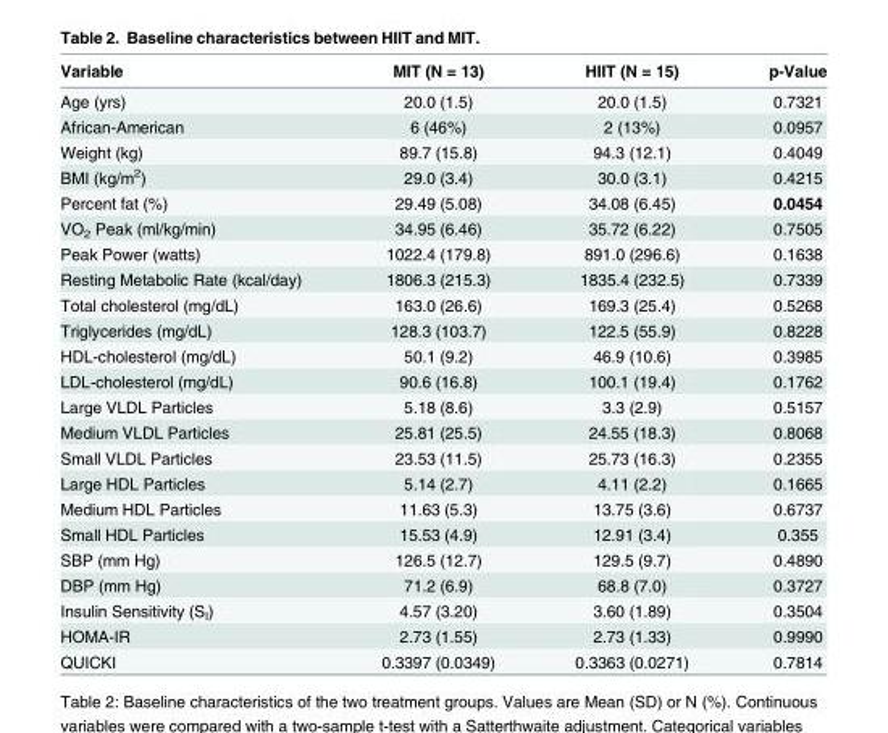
<table><thead><tr><td>Variable</td><td>MIT (N = 13)</td><td>HIIT (N = 15)</td><td>p-Value</td></tr></thead><tbody><tr><td>Age (yrs)</td><td>20.0 (1.5)</td><td>20.0 (1.5)</td><td>0.7321</td></tr><tr><td>African-American</td><td>6 (46%)</td><td>2 (13%)</td><td>0.0957</td></tr><tr><td>Weight (kg)</td><td>89.7 (15.8)</td><td>94.3 (12.1)</td><td>0.4049</td></tr><tr><td>BMI (kg/m<sup>2</sup>)</td><td>29.0 (3.4)</td><td>30.0 (3.1)</td><td>0.4215</td></tr><tr><td>Percent fat (%)</td><td>29.49 (5.08)</td><td>34.08 (6.45)</td><td>0.0454</td></tr><tr><td>VO<sub>2</sub> Peak (ml/kg/min)</td><td>34.95 (6.46)</td><td>35.72 (6.22)</td><td>0.7505</td></tr><tr><td>Peak Power (watts)</td><td>1022.4 (179.8)</td><td>891.0 (296.6)</td><td>0.1638</td></tr><tr><td>Resting Metabolic Rate (kcal/day)</td><td>1806.3 (215.3)</td><td>1835.4 (232.5)</td><td>0.7339</td></tr><tr><td>Total cholesterol (mg/dL)</td><td>163.0 (26.6)</td><td>169.3 (25.4)</td><td>0.5268</td></tr><tr><td>Triglycerides (mg/dL)</td><td>128.3 (103.7)</td><td>122.5 (55.9)</td><td>0.8228</td></tr><tr><td>HDL-cholesterol (mg/dL)</td><td>50.1 (9.2)</td><td>46.9 (10.6)</td><td>0.3985</td></tr><tr><td>LDL-cholesterol (mg/dL)</td><td>90.6 (16.8)</td><td>100.1 (19.4)</td><td>0.1762</td></tr><tr><td>Large VLDL Particles</td><td>5.18 (8.6)</td><td>3.3 (2.9)</td><td>0.5157</td></tr><tr><td>Medium VLDL Particles</td><td>25.81 (25.5)</td><td>24.55 (18.3)</td><td>0.8068</td></tr><tr><td>Small VLDL Particles</td><td>23.53 (11.5)</td><td>25.73 (16.3)</td><td>0.2355</td></tr><tr><td>Large HDL Particles</td><td>5.14 (2.7)</td><td>4.11 (2.2)</td><td>0.1665</td></tr><tr><td>Medium HDL Particles</td><td>11.63 (5.3)</td><td>13.75 (3.6)</td><td>0.6737</td></tr><tr><td>Small HDL Particles</td><td>15.53 (4.9)</td><td>12.91 (3.4)</td><td>0.355</td></tr><tr><td>SBP (mm Hg)</td><td>126.5 (12.7)</td><td>129.5 (9.7)</td><td>0.4890</td></tr><tr><td>DBP (mm Hg)</td><td>71.2 (6.9)</td><td>68.8 (7.0)</td><td>0.3727</td></tr><tr><td>Insulin Sensitivity (S<sub>I</sub>)</td><td>4.57 (3.20)</td><td>3.60 (1.89)</td><td>0.3504</td></tr><tr><td>HOMA-IR</td><td>2.73 (1.55)</td><td>2.73 (1.33)</td><td>0.9990</td></tr><tr><td>QUICKI</td><td>0.3397 (0.0349)</td><td>0.3363 (0.0271)</td><td>0.7814</td></tr></tbody></table>